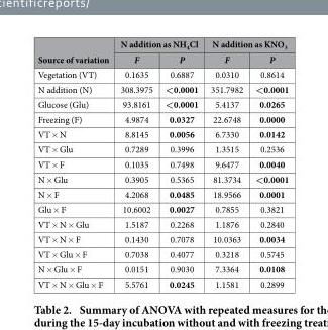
<table><thead><tr><td rowspan="2">Source of variation</td><td colspan="2">N addition as NH<sub>4</sub>Cl</td><td colspan="2">N addition as KNO<sub>3</sub></td></tr><tr><td>F</td><td>P</td><td>F</td><td>P</td></tr></thead><tbody><tr><td>Vegetation (VT)</td><td>0.1635</td><td>0.6887</td><td>0.0310</td><td>0.8614</td></tr><tr><td>N addition (N)</td><td>308.3975</td><td>&lt;0.0001</td><td>351.7982</td><td>&lt;0.0001</td></tr><tr><td>Glucose (Glu)</td><td>93.8161</td><td>&lt;0.0001</td><td>5.4137</td><td>0.0265</td></tr><tr><td>Freezing (F)</td><td>4.9874</td><td>0.0327</td><td>22.6748</td><td>0.0000</td></tr><tr><td>VT × N</td><td>8.8145</td><td>0.0056</td><td>6.7330</td><td>0.0142</td></tr><tr><td>VT × Glu</td><td>0.7289</td><td>0.3996</td><td>1.3515</td><td>0.2536</td></tr><tr><td>VT × F</td><td>0.1035</td><td>0.7498</td><td>9.6477</td><td>0.0040</td></tr><tr><td>N × Glu</td><td>0.3905</td><td>0.5365</td><td>81.3734</td><td>&lt;0.0001</td></tr><tr><td>N × F</td><td>4.2068</td><td>0.0485</td><td>18.9566</td><td>0.0001</td></tr><tr><td>Glu × F</td><td>10.6002</td><td>0.0027</td><td>0.7855</td><td>0.3821</td></tr><tr><td>VT × N × Glu</td><td>1.5187</td><td>0.2268</td><td>1.1876</td><td>0.2840</td></tr><tr><td>VT × N × F</td><td>0.1430</td><td>0.7078</td><td>10.0363</td><td>0.0034</td></tr><tr><td>VT × Glu × F</td><td>0.7038</td><td>0.4077</td><td>0.3218</td><td>0.5745</td></tr><tr><td>N × Glu × F</td><td>0.0151</td><td>0.9030</td><td>7.3364</td><td>0.0108</td></tr><tr><td>VT × N × Glu × F</td><td>5.5761</td><td>0.0245</td><td>1.1581</td><td>0.2899</td></tr></tbody></table>